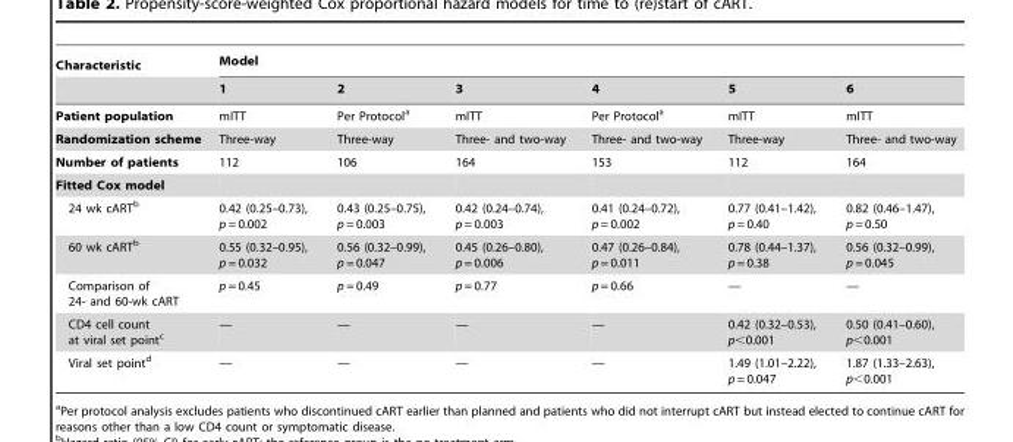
<table><thead><tr><td rowspan="2">Characteristic</td><td colspan="6">Model</td></tr><tr><td>1</td><td>2</td><td>3</td><td>4</td><td>5</td><td>6</td></tr></thead><tbody><tr><td>Patient population</td><td>mITT</td><td>Per Protocol<sup>a</sup></td><td>mITT</td><td>Per Protocol<sup>a</sup></td><td>mITT</td><td>mITT</td></tr><tr><td>Randomization scheme</td><td>Three-way</td><td>Three-way</td><td>Three- and two-way</td><td>Three- and two-way</td><td>Three-way</td><td>Three- and two-way</td></tr><tr><td>Number of patients</td><td>112</td><td>106</td><td>164</td><td>153</td><td>112</td><td>164</td></tr><tr><td colspan="7">Fitted Cox model</td></tr><tr><td>24 wk cART<sup>b</sup></td><td>0.42 (0.25–0.73), p = 0.002</td><td>0.43 (0.25–0.75), p = 0.003</td><td>0.42 (0.24–0.74), p = 0.003</td><td>0.41 (0.24–0.72), p = 0.002</td><td>0.77 (0.41–1.42), p = 0.40</td><td>0.82 (0.46–1.47), p = 0.50</td></tr><tr><td>60 wk cART<sup>b</sup></td><td>0.55 (0.32–0.95), p = 0.032</td><td>0.56 (0.32–0.99), p = 0.047</td><td>0.45 (0.26–0.80), p = 0.006</td><td>0.47 (0.26–0.84), p = 0.011</td><td>0.78 (0.44–1.37), p = 0.38</td><td>0.56 (0.32–0.99), p = 0.045</td></tr><tr><td>Comparison of 24- and 60-wk cART</td><td>p = 0.45</td><td>p = 0.49</td><td>p = 0.77</td><td>p = 0.66</td><td>—</td><td>—</td></tr><tr><td>CD4 cell count at viral set point<sup>c</sup></td><td>—</td><td>—</td><td>—</td><td>—</td><td>0.42 (0.32–0.53), p&lt;0.001</td><td>0.50 (0.41–0.60), p&lt;0.001</td></tr><tr><td>Viral set point<sup>d</sup></td><td>—</td><td>—</td><td>—</td><td>—</td><td>1.49 (1.01–2.22), p = 0.047</td><td>1.87 (1.33–2.63), p&lt;0.001</td></tr></tbody></table>